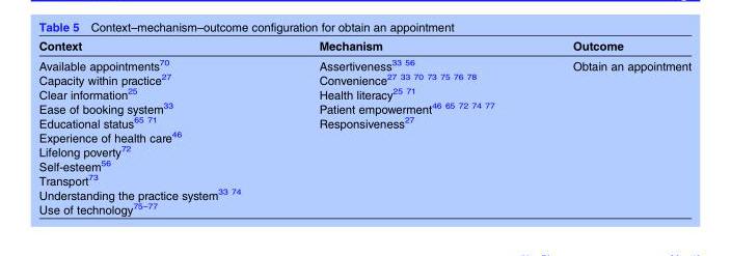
<table><thead><tr><td>Context</td><td>Mechanism</td><td>Outcome</td></tr></thead><tbody><tr><td>Available appointments<sup>70</sup> Capacity within practice<sup>27</sup> Clear information<sup>25</sup> Ease of booking system<sup>33</sup> Educational status<sup>65 71</sup> Experience of health care<sup>46</sup> Lifelong poverty<sup>72</sup> Self-esteem<sup>56</sup> Transport<sup>73</sup> Understanding the practice system<sup>33 74</sup> Use of technology<sup>75–77</sup></td><td>Assertiveness<sup>33 56</sup> Convenience<sup>27 33 70 73 75 76 78</sup> Health literacy<sup>25 71</sup> Patient empowerment<sup>46 65 72 74 77</sup> Responsiveness<sup>27</sup></td><td>Obtain an appointment</td></tr></tbody></table>